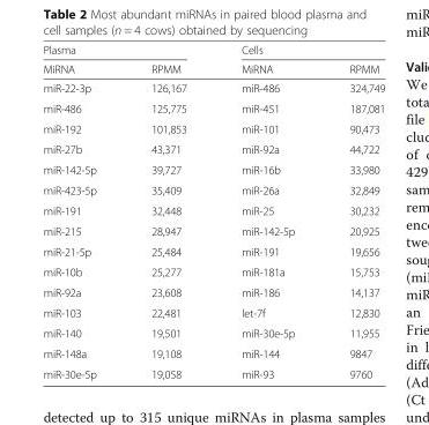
<table><thead><tr><td colspan="2">Plasma</td><td colspan="2">Cells</td></tr><tr><td>MiRNA</td><td>RPMM</td><td>MiRNA</td><td>RPMM</td></tr></thead><tbody><tr><td>miR-22-3p</td><td>126,167</td><td>miR-486</td><td>324,749</td></tr><tr><td>miR-486</td><td>125,775</td><td>miR-451</td><td>187,081</td></tr><tr><td>miR-192</td><td>101,853</td><td>miR-101</td><td>90,473</td></tr><tr><td>miR-27b</td><td>43,371</td><td>miR-92a</td><td>44,722</td></tr><tr><td>miR-142-5p</td><td>39,727</td><td>miR-16b</td><td>33,980</td></tr><tr><td>miR-423-5p</td><td>35,409</td><td>miR-26a</td><td>32,849</td></tr><tr><td>miR-191</td><td>32,448</td><td>miR-25</td><td>30,232</td></tr><tr><td>miR-215</td><td>28,947</td><td>miR-142-5p</td><td>20,925</td></tr><tr><td>miR-21-5p</td><td>25,484</td><td>miR-191</td><td>19,656</td></tr><tr><td>miR-10b</td><td>25,277</td><td>miR-181a</td><td>15,753</td></tr><tr><td>miR-92a</td><td>23,608</td><td>miR-186</td><td>14,137</td></tr><tr><td>miR-103</td><td>22,481</td><td>let-7f</td><td>12,830</td></tr><tr><td>miR-140</td><td>19,501</td><td>miR-30e-5p</td><td>11,955</td></tr><tr><td>miR-148a</td><td>19,108</td><td>miR-144</td><td>9847</td></tr><tr><td>miR-30e-5p</td><td>19,058</td><td>miR-93</td><td>9760</td></tr></tbody></table>